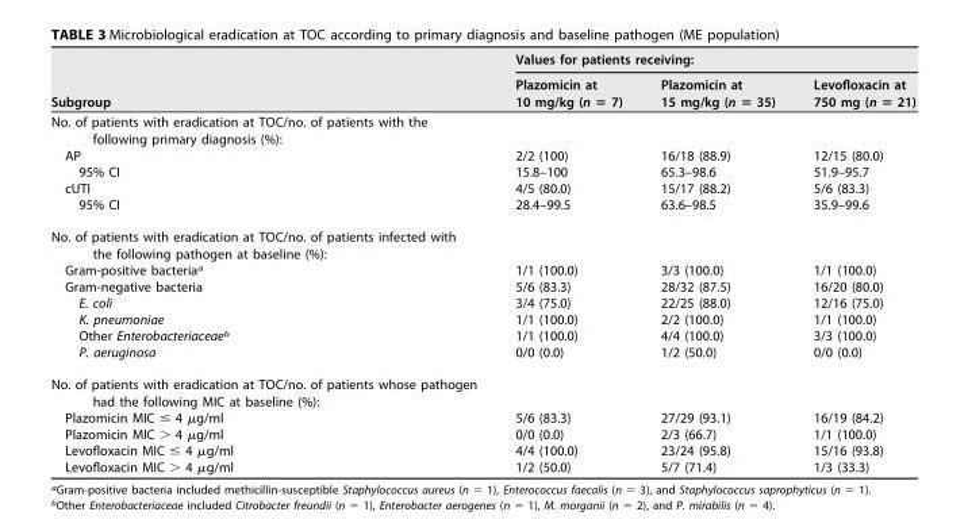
<table><thead><tr><td rowspan="2">Subgroup</td><td colspan="3">Values for patients receiving:</td></tr><tr><td>Plazomicin at 10 mg/kg (n = 7)</td><td>Plazomicin at 15 mg/kg (n = 35)</td><td>Levofloxacin at 750 mg (n = 21)</td></tr></thead><tbody><tr><td colspan="4">No. of patients with eradication at TOC/no. of patients with the following primary diagnosis (%):</td></tr><tr><td>AP</td><td>2/2 (100)</td><td>16/18 (88.9)</td><td>12/15 (80.0)</td></tr><tr><td>95% CI</td><td>15.8–100</td><td>65.3–98.6</td><td>51.9–95.7</td></tr><tr><td>cUTI</td><td>4/5 (80.0)</td><td>15/17 (88.2)</td><td>5/6 (83.3)</td></tr><tr><td>95% CI</td><td>28.4–99.5</td><td>63.6–98.5</td><td>35.9–99.6</td></tr><tr><td colspan="4">No. of patients with eradication at TOC/no. of patients infected with the following pathogen at baseline (%):</td></tr><tr><td>Gram-positive bacteria<sup>a</sup></td><td>1/1 (100.0)</td><td>3/3 (100.0)</td><td>1/1 (100.0)</td></tr><tr><td>Gram-negative bacteria</td><td>5/6 (83.3)</td><td>28/32 (87.5)</td><td>16/20 (80.0)</td></tr><tr><td>E. coli</td><td>3/4 (75.0)</td><td>22/25 (88.0)</td><td>12/16 (75.0)</td></tr><tr><td>K. pneumoniae</td><td>1/1 (100.0)</td><td>2/2 (100.0)</td><td>1/1 (100.0)</td></tr><tr><td>Other Enterobacteriaceae<sup>b</sup></td><td>1/1 (100.0)</td><td>4/4 (100.0)</td><td>3/3 (100.0)</td></tr><tr><td>P. aeruginosa</td><td>0/0 (0.0)</td><td>1/2 (50.0)</td><td>0/0 (0.0)</td></tr><tr><td colspan="4">No. of patients with eradication at TOC/no. of patients whose pathogen had the following MIC at baseline (%):</td></tr><tr><td>Plazomicin MIC ≤ 4 μg/ml</td><td>5/6 (83.3)</td><td>27/29 (93.1)</td><td>16/19 (84.2)</td></tr><tr><td>Plazomicin MIC &gt; 4 μg/ml</td><td>0/0 (0.0)</td><td>2/3 (66.7)</td><td>1/1 (100.0)</td></tr><tr><td>Levofloxacin MIC ≤ 4 μg/ml</td><td>4/4 (100.0)</td><td>23/24 (95.8)</td><td>15/16 (93.8)</td></tr><tr><td>Levofloxacin MIC &gt; 4 μg/ml</td><td>1/2 (50.0)</td><td>5/7 (71.4)</td><td>1/3 (33.3)</td></tr></tbody></table>